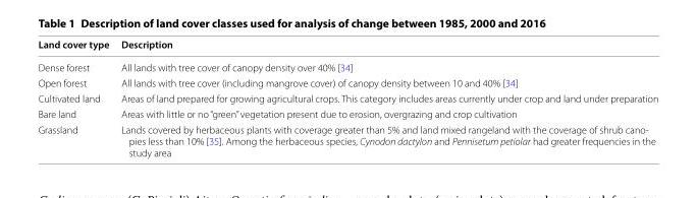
<table><thead><tr><td>Land cover type</td><td>Description</td></tr></thead><tbody><tr><td>Dense forest</td><td>All lands with tree cover of canopy density over 40% [34]</td></tr><tr><td>Open forest</td><td>All lands with tree cover (including mangrove cover) of canopy density between 10 and 40% [34]</td></tr><tr><td>Cultivated land</td><td>Areas of land prepared for growing agricultural crops. This category includes areas currently under crop and land under preparation</td></tr><tr><td>Bare land</td><td>Areas with little or no “green” vegetation present due to erosion, overgrazing and crop cultivation</td></tr><tr><td>Grassland</td><td>Lands covered by herbaceous plants with coverage greater than 5% and land mixed rangeland with the coverage of shrub cano- pies less than 10% [35]. Among the herbaceous species, Cynodon dactylon and Pennisetum petiolar had greater frequencies in the study area</td></tr></tbody></table>